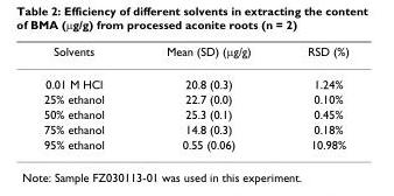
<table><thead><tr><td>Solvents</td><td>Mean (SD) (μg/g)</td><td>RSD (%)</td></tr></thead><tbody><tr><td>0.01 M HCl</td><td>20.8 (0.3)</td><td>1.24%</td></tr><tr><td>25% ethanol</td><td>22.7 (0.0)</td><td>0.10%</td></tr><tr><td>50% ethanol</td><td>25.3 (0.1)</td><td>0.45%</td></tr><tr><td>75% ethanol</td><td>14.8 (0.3)</td><td>0.18%</td></tr><tr><td>95% ethanol</td><td>0.55 (0.06)</td><td>10.98%</td></tr></tbody></table>